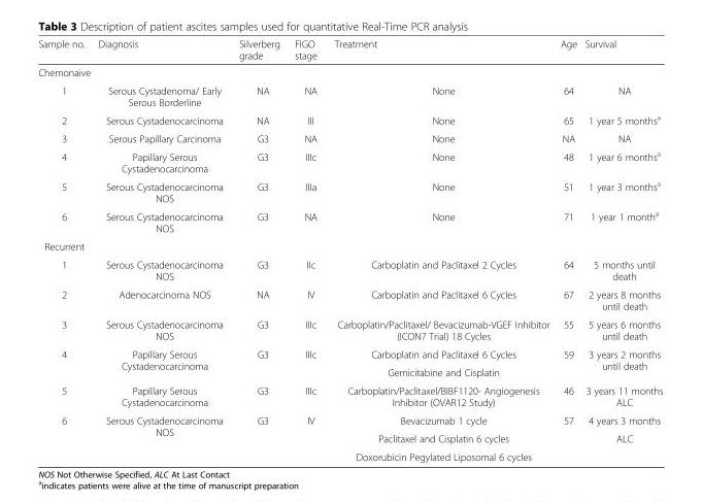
<table><thead><tr><td>Sample no.</td><td>Diagnosis</td><td>Silverberg grade</td><td>FIGO stage</td><td>Treatment</td><td>Age</td><td>Survival</td></tr></thead><tbody><tr><td colspan="7">Chemonaive</td></tr><tr><td>1</td><td>Serous Cystadenoma/ Early Serous Borderline</td><td>NA</td><td>NA</td><td>None</td><td>64</td><td>NA</td></tr><tr><td>2</td><td>Serous Cystadenocarcinoma</td><td>NA</td><td>III</td><td>None</td><td>65</td><td>1 year 5 months<sup>a</sup></td></tr><tr><td>3</td><td>Serous Papillary Carcinoma</td><td>G3</td><td>NA</td><td>None</td><td>NA</td><td>NA</td></tr><tr><td>4</td><td>Papillary Serous Cystadenocarcinoma</td><td>G3</td><td>IIIc</td><td>None</td><td>48</td><td>1 year 6 months<sup>a</sup></td></tr><tr><td>5</td><td>Serous Cystadenocarcinoma NOS</td><td>G3</td><td>IIIa</td><td>None</td><td>51</td><td>1 year 3 months<sup>a</sup></td></tr><tr><td>6</td><td>Serous Cystadenocarcinoma NOS</td><td>G3</td><td>NA</td><td>None</td><td>71</td><td>1 year 1 month<sup>a</sup></td></tr><tr><td colspan="7">Recurrent</td></tr><tr><td>1</td><td>Serous Cystadenocarcinoma NOS</td><td>G3</td><td>IIc</td><td>Carboplatin and Paclitaxel 2 Cycles</td><td>64</td><td>5 months until death</td></tr><tr><td>2</td><td>Adenocarcinoma NOS</td><td>NA</td><td>IV</td><td>Carboplatin and Paclitaxel 6 Cycles</td><td>67</td><td>2 years 8 months until death</td></tr><tr><td>3</td><td>Serous Cystadenocarcinoma NOS</td><td>G3</td><td>IIIc</td><td>Carboplatin/Paclitaxel/ Bevacizumab-VGEF Inhibitor (ICON7 Trial) 18 Cycles</td><td>55</td><td>5 years 6 months until death</td></tr><tr><td rowspan="2">4</td><td rowspan="2">Papillary Serous Cystadenocarcinoma</td><td rowspan="2">G3</td><td rowspan="2">IIIc</td><td>Carboplatin and Paclitaxel 6 Cycles</td><td rowspan="2">59</td><td rowspan="2">3 years 2 months until death</td></tr><tr><td>Gemicitabine and Cisplatin</td></tr><tr><td>5</td><td>Papillary Serous Cystadenocarcinoma</td><td>G3</td><td>IIIc</td><td>Carboplatin/Paclitaxel/BIBF1120- Angiogenesis Inhibitor (OVAR12 Study)</td><td>46</td><td>3 years 11 months ALC</td></tr><tr><td rowspan="3">6</td><td rowspan="3">Serous Cystadenocarcinoma NOS</td><td rowspan="3">G3</td><td rowspan="3">IV</td><td>Bevacizumab 1 cycle</td><td>57</td><td>4 years 3 months</td></tr><tr><td>Paclitaxel and Cisplatin 6 cycles</td><td rowspan="2"></td><td rowspan="2">ALC</td></tr><tr><td>Doxorubicin Pegylated Liposomal 6 cycles</td></tr></tbody></table>